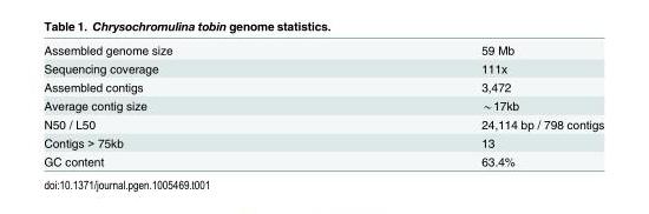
<table><tbody><tr><td>Assembled genome size</td><td>59 Mb</td></tr><tr><td>Sequencing coverage</td><td>111x</td></tr><tr><td>Assembled contigs</td><td>3,472</td></tr><tr><td>Average contig size</td><td>*17kb</td></tr><tr><td>N50 / L50</td><td>24,114 bp / 798 contigs</td></tr><tr><td>Contigs &gt; 75kb</td><td>13</td></tr><tr><td>GC content</td><td>63.4%</td></tr></tbody></table>